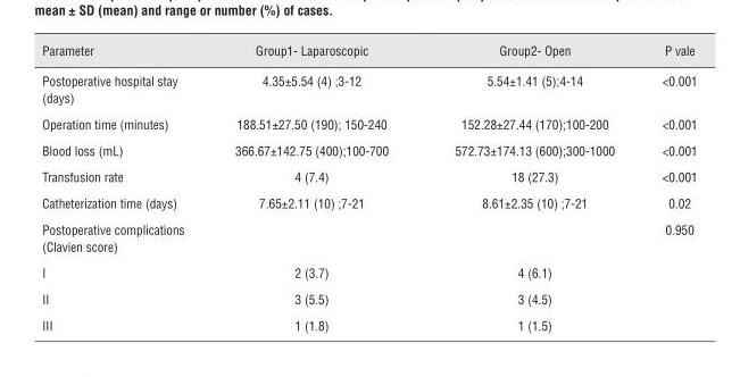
<table><thead><tr><td>Parameter</td><td>Group1- Laparoscopic</td><td>Group2- Open</td><td>P vale</td></tr></thead><tbody><tr><td>Postoperative hospital stay (days)</td><td>4.35±5.54 (4) ;3-12</td><td>5.54±1.41 (5);4-14</td><td>&lt;0.001</td></tr><tr><td>Operation time (minutes)</td><td>188.51±27.50 (190); 150-240</td><td>152.28±27.44 (170);100-200</td><td>&lt;0.001</td></tr><tr><td>Blood loss (mL)</td><td>366.67±142.75 (400);100-700</td><td>572.73±174.13 (600);300-1000</td><td>&lt;0.001</td></tr><tr><td>Transfusion rate</td><td>4 (7.4)</td><td>18 (27.3)</td><td>&lt;0.001</td></tr><tr><td>Catheterization time (days)</td><td>7.65±2.11 (10) ;7-21</td><td>8.61±2.35 (10) ;7-21</td><td>0.02</td></tr><tr><td>Postoperative complications (Clavien score)</td><td></td><td></td><td>0.950</td></tr><tr><td>I</td><td>2 (3.7)</td><td>4 (6.1)</td><td></td></tr><tr><td>II</td><td>3 (5.5)</td><td>3 (4.5)</td><td></td></tr><tr><td>III</td><td>1 (1.8)</td><td>1 (1.5)</td><td></td></tr></tbody></table>